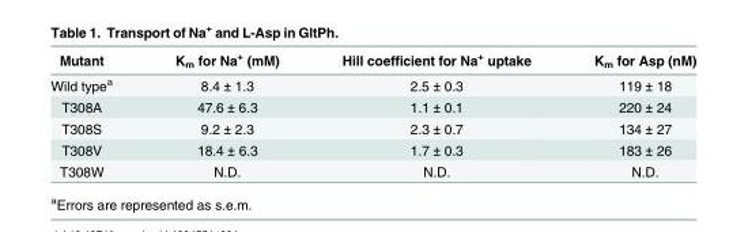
<table><thead><tr><td>Mutant</td><td>K<sub>m</sub> for Na<sup>+</sup> (mM)</td><td>Hill coefficient for Na<sup>+</sup> uptake</td><td>K<sub>m</sub> for Asp (nM)</td></tr></thead><tbody><tr><td>Wild type<sup>a</sup></td><td>8.4 ± 1.3</td><td>2.5 ± 0.3</td><td>119 ± 18</td></tr><tr><td>T308A</td><td>47.6 ± 6.3</td><td>1.1 ± 0.1</td><td>220 ± 24</td></tr><tr><td>T308S</td><td>9.2 ± 2.3</td><td>2.3 ± 0.7</td><td>134 ± 27</td></tr><tr><td>T308V</td><td>18.4 ± 6.3</td><td>1.7 ± 0.3</td><td>183 ± 26</td></tr><tr><td>T308W</td><td>N.D.</td><td>N.D.</td><td>N.D.</td></tr></tbody></table>